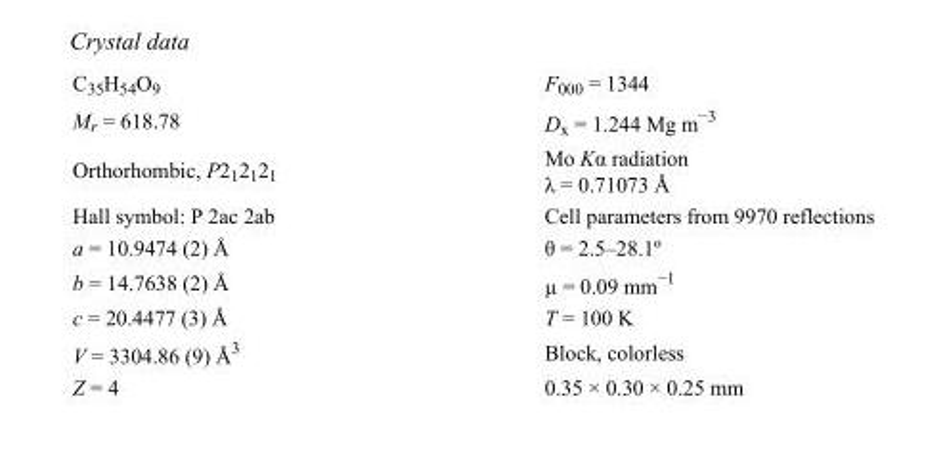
<table><tbody><tr><td>C<sub>35</sub>H<sub>54</sub>O<sub>9</sub></td><td>F000 = 1344</td></tr><tr><td>M<sub>r</sub> = 618.78</td><td>D<sub>x</sub> = 1.244 Mg m<sup>−3</sup></td></tr><tr><td>Orthorhombic, P2<sub>1</sub>2<sub>1</sub>2<sub>1</sub></td><td>Mo Kα radiation λ = 0.71073 Å</td></tr><tr><td>Hall symbol: P 2ac 2ab</td><td>Cell parameters from 9970 reflections</td></tr><tr><td>a = 10.9474 (2) Å</td><td>θ = 2.5–28.1º</td></tr><tr><td>b = 14.7638 (2) Å</td><td>µ = 0.09 mm<sup>−1</sup></td></tr><tr><td>c = 20.4477 (3) Å</td><td>T = 100 K</td></tr><tr><td>V = 3304.86 (9) Å<sup>3</sup></td><td>Block, colorless</td></tr><tr><td>Z = 4</td><td>0.35 × 0.30 × 0.25 mm</td></tr></tbody></table>